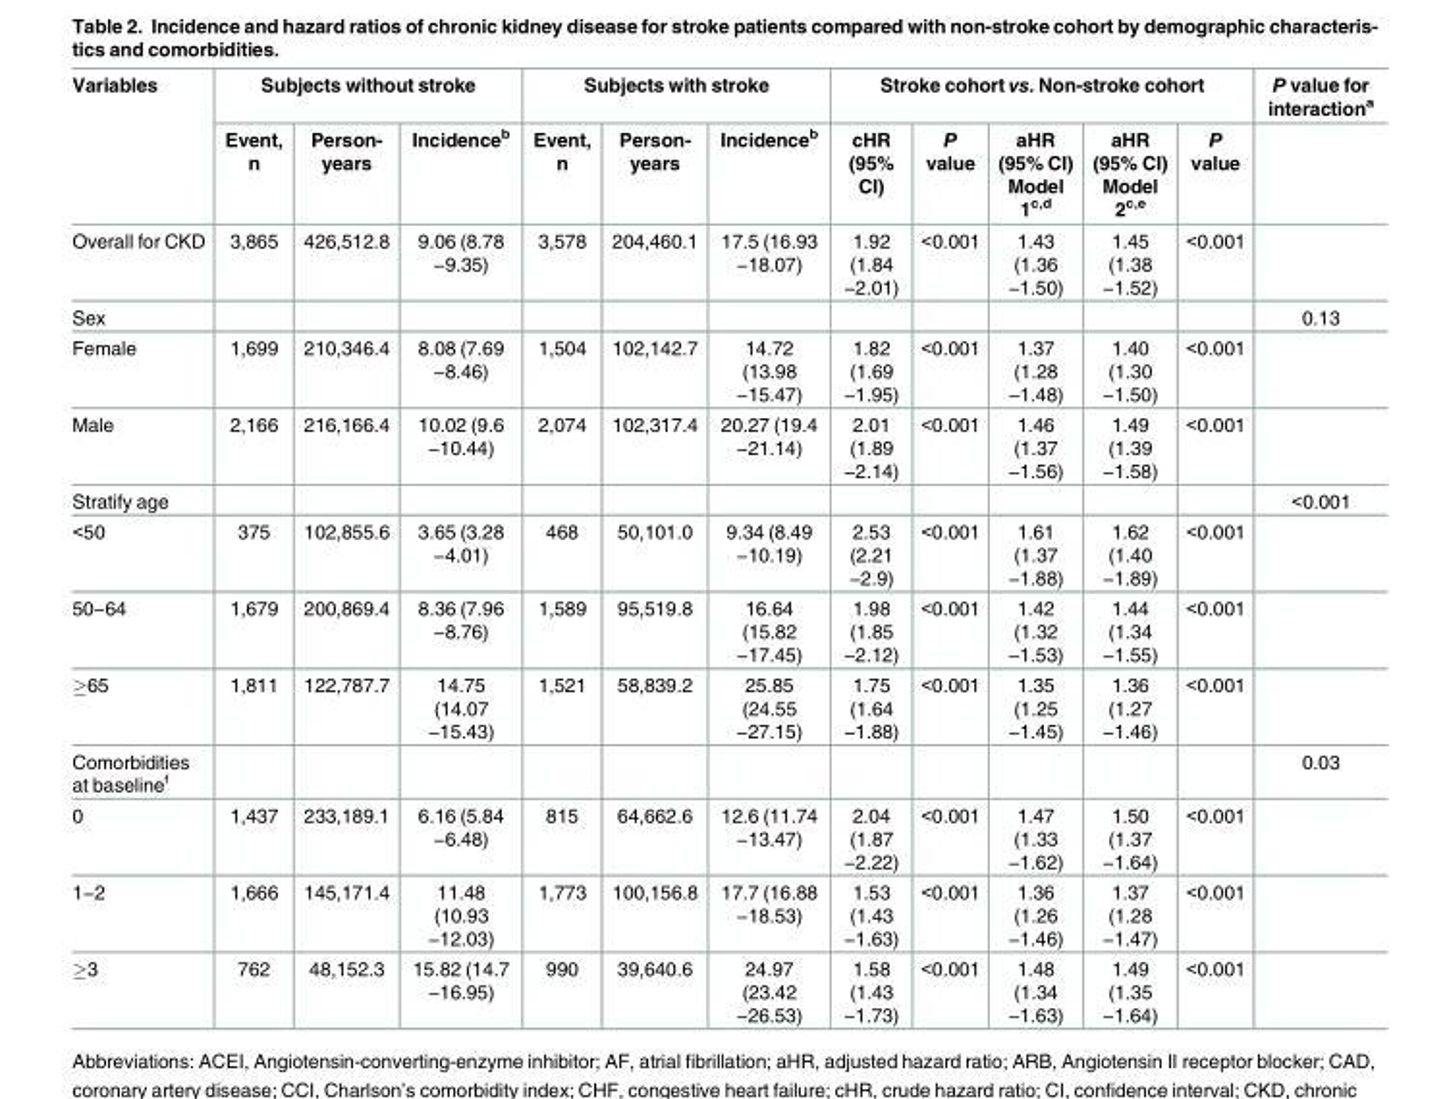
<table><thead><tr><td rowspan="2">Variables</td><td colspan="3">Subjects without stroke</td><td colspan="3">Subjects with stroke</td><td colspan="5">Stroke cohort vs. Non-stroke cohort</td><td rowspan="2">P value for interaction<sup>a</sup></td></tr><tr><td>Event, n</td><td>Person- years</td><td>Incidence<sup>b</sup></td><td>Event, n</td><td>Person- years</td><td>Incidence<sup>b</sup></td><td>cHR (95% CI)</td><td>P value</td><td>aHR (95% CI) Model 1<sup>c,d</sup></td><td>aHR (95% CI) Model 2<sup>c,e</sup></td><td>P value</td></tr></thead><tbody><tr><td>Overall for CKD</td><td>3,865</td><td>426,512.8</td><td>9.06 (8.78 −9.35)</td><td>3,578</td><td>204,460.1</td><td>17.5 (16.93 −18.07)</td><td>1.92 (1.84 −2.01)</td><td>&lt;0.001</td><td>1.43 (1.36 −1.50)</td><td>1.45 (1.38 −1.52)</td><td>&lt;0.001</td><td></td></tr><tr><td>Sex</td><td></td><td></td><td></td><td></td><td></td><td></td><td></td><td></td><td></td><td></td><td></td><td>0.13</td></tr><tr><td>Female</td><td>1,699</td><td>210,346.4</td><td>8.08 (7.69 −8.46)</td><td>1,504</td><td>102,142.7</td><td>14.72 (13.98 −15.47)</td><td>1.82 (1.69 −1.95)</td><td>&lt;0.001</td><td>1.37 (1.28 −1.48)</td><td>1.40 (1.30 −1.50)</td><td>&lt;0.001</td><td></td></tr><tr><td>Male</td><td>2,166</td><td>216,166.4</td><td>10.02 (9.6 −10.44)</td><td>2,074</td><td>102,317.4</td><td>20.27 (19.4 −21.14)</td><td>2.01 (1.89 −2.14)</td><td>&lt;0.001</td><td>1.46 (1.37 −1.56)</td><td>1.49 (1.39 −1.58)</td><td>&lt;0.001</td><td></td></tr><tr><td>Stratify age</td><td></td><td></td><td></td><td></td><td></td><td></td><td></td><td></td><td></td><td></td><td></td><td>&lt;0.001</td></tr><tr><td>&lt;50</td><td>375</td><td>102,855.6</td><td>3.65 (3.28 −4.01)</td><td>468</td><td>50,101.0</td><td>9.34 (8.49 −10.19)</td><td>2.53 (2.21 −2.9)</td><td>&lt;0.001</td><td>1.61 (1.37 −1.88)</td><td>1.62 (1.40 −1.89)</td><td>&lt;0.001</td><td></td></tr><tr><td>50−64</td><td>1,679</td><td>200,869.4</td><td>8.36 (7.96 −8.76)</td><td>1,589</td><td>95,519.8</td><td>16.64 (15.82 −17.45)</td><td>1.98 (1.85 −2.12)</td><td>&lt;0.001</td><td>1.42 (1.32 −1.53)</td><td>1.44 (1.34 −1.55)</td><td>&lt;0.001</td><td></td></tr><tr><td>≥65</td><td>1,811</td><td>122,787.7</td><td>14.75 (14.07 −15.43)</td><td>1,521</td><td>58,839.2</td><td>25.85 (24.55 −27.15)</td><td>1.75 (1.64 −1.88)</td><td>&lt;0.001</td><td>1.35 (1.25 −1.45)</td><td>1.36 (1.27 −1.46)</td><td>&lt;0.001</td><td></td></tr><tr><td>Comorbidities at baseline<sup>f</sup></td><td></td><td></td><td></td><td></td><td></td><td></td><td></td><td></td><td></td><td></td><td></td><td>0.03</td></tr><tr><td>0</td><td>1,437</td><td>233,189.1</td><td>6.16 (5.84 −6.48)</td><td>815</td><td>64,662.6</td><td>12.6 (11.74 −13.47)</td><td>2.04 (1.87 −2.22)</td><td>&lt;0.001</td><td>1.47 (1.33 −1.62)</td><td>1.50 (1.37 −1.64)</td><td>&lt;0.001</td><td></td></tr><tr><td>1−2</td><td>1,666</td><td>145,171.4</td><td>11.48 (10.93 −12.03)</td><td>1,773</td><td>100,156.8</td><td>17.7 (16.88 −18.53)</td><td>1.53 (1.43 −1.63)</td><td>&lt;0.001</td><td>1.36 (1.26 −1.46)</td><td>1.37 (1.28 −1.47)</td><td>&lt;0.001</td><td></td></tr><tr><td>≥3</td><td>762</td><td>48,152.3</td><td>15.82 (14.7 −16.95)</td><td>990</td><td>39,640.6</td><td>24.97 (23.42 −26.53)</td><td>1.58 (1.43 −1.73)</td><td>&lt;0.001</td><td>1.48 (1.34 −1.63)</td><td>1.49 (1.35 −1.64)</td><td>&lt;0.001</td><td></td></tr></tbody></table>